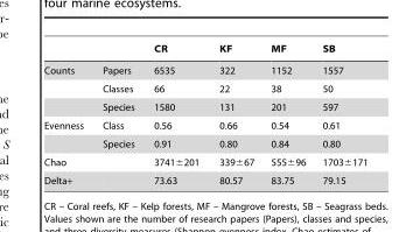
<table><thead><tr><td></td><td></td><td>CR</td><td>KF</td><td>MF</td><td>SB</td></tr></thead><tbody><tr><td rowspan="3">Counts</td><td>Papers</td><td>6535</td><td>322</td><td>1152</td><td>1557</td></tr><tr><td>Classes</td><td>66</td><td>22</td><td>38</td><td>50</td></tr><tr><td>Species</td><td>1580</td><td>131</td><td>201</td><td>597</td></tr><tr><td rowspan="2">Evenness</td><td>Class</td><td>0.56</td><td>0.66</td><td>0.54</td><td>0.61</td></tr><tr><td>Species</td><td>0.91</td><td>0.80</td><td>0.84</td><td>0.80</td></tr><tr><td>Chao</td><td></td><td>3741±201</td><td>339±67</td><td>555±96</td><td>1703±171</td></tr><tr><td>Delta+</td><td></td><td>73.63</td><td>80.57</td><td>83.75</td><td>79.15</td></tr></tbody></table>